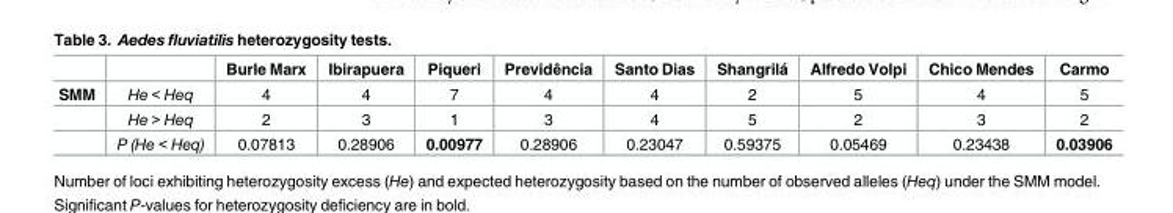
<table><thead><tr><td></td><td></td><td>Burle Marx</td><td>Ibirapuera</td><td>Piqueri</td><td>Previdência</td><td>Santo Dias</td><td>Shangrilá</td><td>Alfredo Volpi</td><td>Chico Mendes</td><td>Carmo</td></tr></thead><tbody><tr><td rowspan="3">SMM</td><td>He &lt; Heq</td><td>4</td><td>4</td><td>7</td><td>4</td><td>4</td><td>2</td><td>5</td><td>4</td><td>5</td></tr><tr><td>He &gt; Heq</td><td>2</td><td>3</td><td>1</td><td>3</td><td>4</td><td>5</td><td>2</td><td>3</td><td>2</td></tr><tr><td>P (He &lt; Heq)</td><td>0.07813</td><td>0.28906</td><td>0.00977</td><td>0.28906</td><td>0.23047</td><td>0.59375</td><td>0.05469</td><td>0.23438</td><td>0.03906</td></tr></tbody></table>